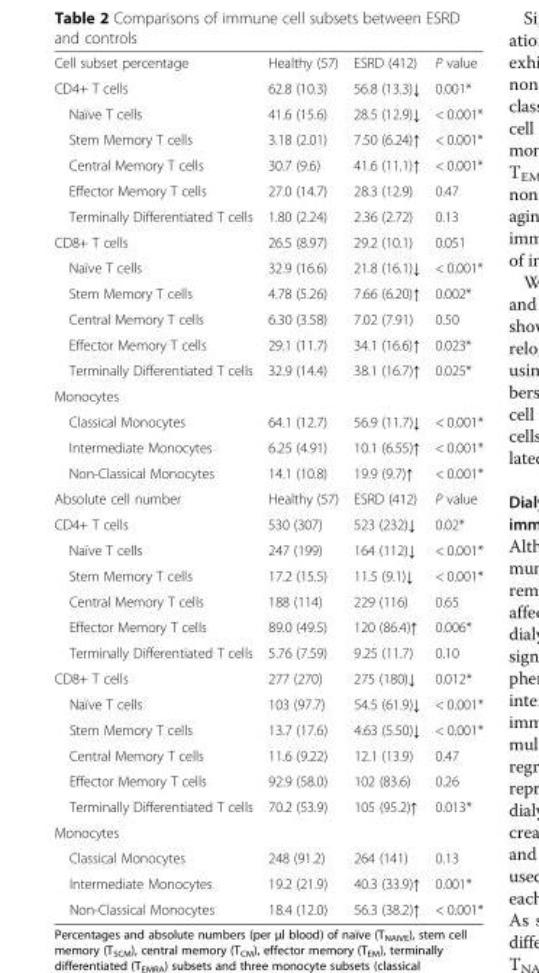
<table><tbody><tr><td>Cell subset percentage</td><td>Healthy (57)</td><td>ESRD (412)</td><td>P value</td></tr><tr><td>CD4+ T cells</td><td>62.8 (10.3)</td><td>56.8 (13.3)↓</td><td>0.001*</td></tr><tr><td>Naïve T cells</td><td>41.6 (15.6)</td><td>28.5 (12.9)↓</td><td>&lt; 0.001*</td></tr><tr><td>Stem Memory T cells</td><td>3.18 (2.01)</td><td>7.50 (6.24)↑</td><td>&lt; 0.001*</td></tr><tr><td>Central Memory T cells</td><td>30.7 (9.6)</td><td>41.6 (11.1)↑</td><td>&lt; 0.001*</td></tr><tr><td>Effector Memory T cells</td><td>27.0 (14.7)</td><td>28.3 (12.9)</td><td>0.47</td></tr><tr><td>Terminally Differentiated T cells</td><td>1.80 (2.24)</td><td>2.36 (2.72)</td><td>0.13</td></tr><tr><td>CD8+ T cells</td><td>26.5 (8.97)</td><td>29.2 (10.1)</td><td>0.051</td></tr><tr><td>Naïve T cells</td><td>32.9 (16.6)</td><td>21.8 (16.1)↓</td><td>&lt; 0.001*</td></tr><tr><td>Stem Memory T cells</td><td>4.78 (5.26)</td><td>7.66 (6.20)↑</td><td>0.002*</td></tr><tr><td>Central Memory T cells</td><td>6.30 (3.58)</td><td>7.02 (7.91)</td><td>0.50</td></tr><tr><td>Effector Memory T cells</td><td>29.1 (11.7)</td><td>34.1 (16.6)↑</td><td>0.023*</td></tr><tr><td>Terminally Differentiated T cells</td><td>32.9 (14.4)</td><td>38.1 (16.7)↑</td><td>0.025*</td></tr><tr><td colspan="4">Monocytes</td></tr><tr><td>Classical Monocytes</td><td>64.1 (12.7)</td><td>56.9 (11.7)↓</td><td>&lt; 0.001*</td></tr><tr><td>Intermediate Monocytes</td><td>6.25 (4.91)</td><td>10.1 (6.55)↑</td><td>&lt; 0.001*</td></tr><tr><td>Non-Classical Monocytes</td><td>14.1 (10.8)</td><td>19.9 (9.7)↑</td><td>&lt; 0.001*</td></tr><tr><td>Absolute cell number</td><td>Healthy (57)</td><td>ESRD (412)</td><td>P value</td></tr><tr><td>CD4+ T cells</td><td>530 (307)</td><td>523 (232)↓</td><td>0.02*</td></tr><tr><td>Naïve T cells</td><td>247 (199)</td><td>164 (112)↓</td><td>&lt; 0.001*</td></tr><tr><td>Stem Memory T cells</td><td>17.2 (15.5)</td><td>11.5 (9.1)↓</td><td>&lt; 0.001*</td></tr><tr><td>Central Memory T cells</td><td>188 (114)</td><td>229 (116)</td><td>0.65</td></tr><tr><td>Effector Memory T cells</td><td>89.0 (49.5)</td><td>120 (86.4)↑</td><td>0.006*</td></tr><tr><td>Terminally Differentiated T cells</td><td>5.76 (7.59)</td><td>9.25 (11.7)</td><td>0.10</td></tr><tr><td>CD8+ T cells</td><td>277 (270)</td><td>275 (180)↓</td><td>0.012*</td></tr><tr><td>Naïve T cells</td><td>103 (97.7)</td><td>54.5 (61.9)↓</td><td>&lt; 0.001*</td></tr><tr><td>Stem Memory T cells</td><td>13.7 (17.6)</td><td>4.63 (5.50)↓</td><td>&lt; 0.001*</td></tr><tr><td>Central Memory T cells</td><td>11.6 (9.22)</td><td>12.1 (13.9)</td><td>0.47</td></tr><tr><td>Effector Memory T cells</td><td>92.9 (58.0)</td><td>102 (83.6)</td><td>0.26</td></tr><tr><td>Terminally Differentiated T cells</td><td>70.2 (53.9)</td><td>105 (95.2)↑</td><td>0.013*</td></tr><tr><td colspan="4">Monocytes</td></tr><tr><td>Classical Monocytes</td><td>248 (91.2)</td><td>264 (141)</td><td>0.13</td></tr><tr><td>Intermediate Monocytes</td><td>19.2 (21.9)</td><td>40.3 (33.9)↑</td><td>0.001*</td></tr><tr><td>Non-Classical Monocytes</td><td>18.4 (12.0)</td><td>56.3 (38.2)↑</td><td>&lt; 0.001*</td></tr></tbody></table>